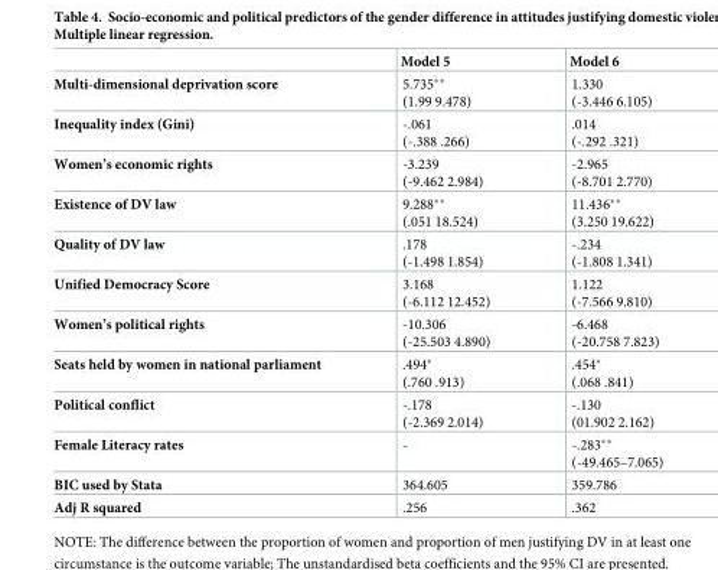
<table><thead><tr><td></td><td>Model 5</td><td>Model 6</td></tr></thead><tbody><tr><td>Multi-dimensional deprivation score</td><td>5.735** (1.99 9.478)</td><td>1.330 (-3.446 6.105)</td></tr><tr><td>Inequality index (Gini)</td><td>-.061 (-.388 .266)</td><td>.014 (-.292 .321)</td></tr><tr><td>Women’s economic rights</td><td>-3.239 (-9.462 2.984)</td><td>-2.965 (-8.701 2.770)</td></tr><tr><td>Existence of DV law</td><td>9.288** (.051 18.524)</td><td>11.436** (3.250 19.622)</td></tr><tr><td>Quality of DV law</td><td>.178 (-1.498 1.854)</td><td>-.234 (-1.808 1.341)</td></tr><tr><td>Unified Democracy Score</td><td>3.168 (-6.112 12.452)</td><td>1.122 (-7.566 9.810)</td></tr><tr><td>Women’s political rights</td><td>-10.306 (-25.503 4.890)</td><td>-6.468 (-20.758 7.823)</td></tr><tr><td>Seats held by women in national parliament</td><td>.494* (.760 .913)</td><td>.454* (.068 .841)</td></tr><tr><td>Political conflict</td><td>-.178 (-2.369 2.014)</td><td>-.130 (01.902 2.162)</td></tr><tr><td>Female Literacy rates</td><td>-</td><td>-.283** (-49.465–7.065)</td></tr><tr><td>BIC used by Stata</td><td>364.605</td><td>359.786</td></tr><tr><td>Adj R squared</td><td>.256</td><td>.362</td></tr></tbody></table>